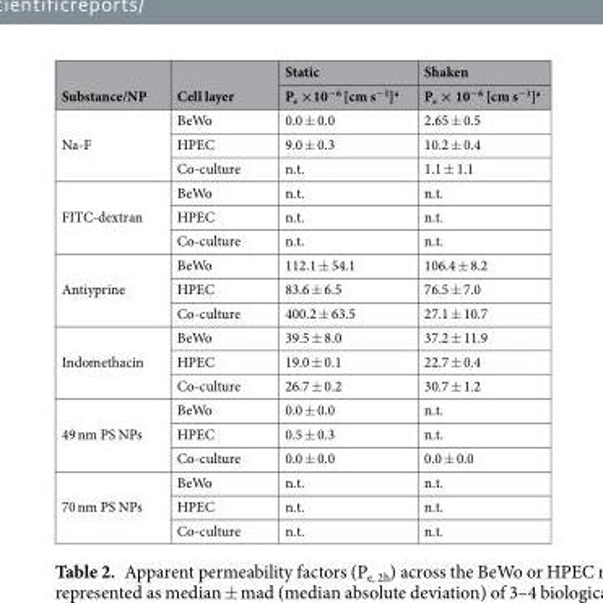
<table><thead><tr><td rowspan="2">Substance/NP</td><td rowspan="2">Cell layer</td><td rowspan="2">Static P<sub>e</sub> ×10<sup>−6</sup> [cm s<sup>−1</sup>]<sup>a</sup></td><td rowspan="2">Shaken P<sub>e</sub> × 10<sup>−6</sup> [cm s<sup>−1</sup>]<sup>a</sup></td></tr><tr></tr></thead><tbody><tr><td rowspan="3">Na-F</td><td>BeWo</td><td>0.0 ± 0.0</td><td>2.65 ± 0.5</td></tr><tr><td>HPEC</td><td>9.0 ± 0.3</td><td>10.2 ± 0.4</td></tr><tr><td>Co-culture</td><td>n.t.</td><td>1.1 ± 1.1</td></tr><tr><td rowspan="3">FITC-dextran</td><td>BeWo</td><td>n.t.</td><td>n.t.</td></tr><tr><td>HPEC</td><td>n.t.</td><td>n.t.</td></tr><tr><td>Co-culture</td><td>n.t.</td><td>n.t.</td></tr><tr><td rowspan="3">Antiyprine</td><td>BeWo</td><td>112.1 ± 54.1</td><td>106.4 ± 8.2</td></tr><tr><td>HPEC</td><td>83.6 ± 6.5</td><td>76.5 ± 7.0</td></tr><tr><td>Co-culture</td><td>400.2 ± 63.5</td><td>27.1 ± 10.7</td></tr><tr><td rowspan="3">Indomethacin</td><td>BeWo</td><td>39.5 ± 8.0</td><td>37.2 ± 11.9</td></tr><tr><td>HPEC</td><td>19.0 ± 0.1</td><td>22.7 ± 0.4</td></tr><tr><td>Co-culture</td><td>26.7 ± 0.2</td><td>30.7 ± 1.2</td></tr><tr><td rowspan="3">49 nm PS NPs</td><td>BeWo</td><td>0.0 ± 0.0</td><td>n.t.</td></tr><tr><td>HPEC</td><td>0.5 ± 0.3</td><td>n.t.</td></tr><tr><td>Co-culture</td><td>0.0 ± 0.0</td><td>0.0 ± 0.0</td></tr><tr><td rowspan="3">70 nm PS NPs</td><td>BeWo</td><td>n.t.</td><td>n.t.</td></tr><tr><td>HPEC</td><td>n.t.</td><td>n.t.</td></tr><tr><td>Co-culture</td><td>n.t.</td><td>n.t.</td></tr></tbody></table>